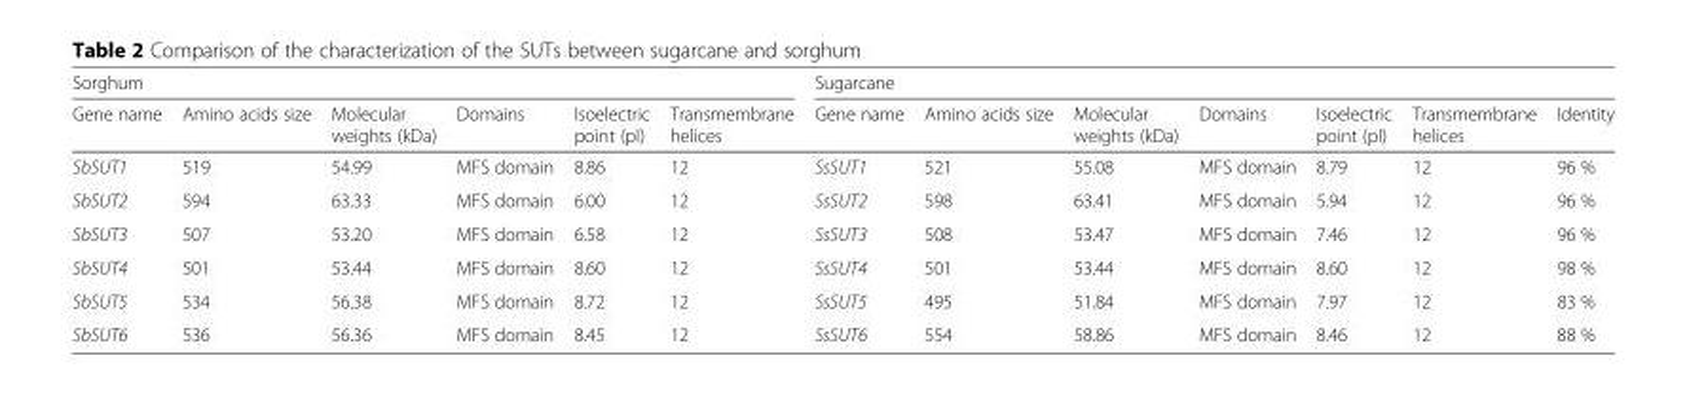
<table><thead><tr><td colspan="6">Sorghum</td><td colspan="7">Sugarcane</td></tr><tr><td>Gene name</td><td>Amino acids size</td><td>Molecular weights (kDa)</td><td>Domains</td><td>Isoelectric point (pI)</td><td>Transmembrane helices</td><td>Gene name</td><td>Amino acids size</td><td>Molecular weights (kDa)</td><td>Domains</td><td>Isoelectric point (pI)</td><td>Transmembrane helices</td><td>Identity</td></tr></thead><tbody><tr><td>SbSUT1</td><td>519</td><td>54.99</td><td>MFS domain</td><td>8.86</td><td>12</td><td>SsSUT1</td><td>521</td><td>55.08</td><td>MFS domain</td><td>8.79</td><td>12</td><td>96 %</td></tr><tr><td>SbSUT2</td><td>594</td><td>63.33</td><td>MFS domain</td><td>6.00</td><td>12</td><td>SsSUT2</td><td>598</td><td>63.41</td><td>MFS domain</td><td>5.94</td><td>12</td><td>96 %</td></tr><tr><td>SbSUT3</td><td>507</td><td>53.20</td><td>MFS domain</td><td>6.58</td><td>12</td><td>SsSUT3</td><td>508</td><td>53.47</td><td>MFS domain</td><td>7.46</td><td>12</td><td>96 %</td></tr><tr><td>SbSUT4</td><td>501</td><td>53.44</td><td>MFS domain</td><td>8.60</td><td>12</td><td>SsSUT4</td><td>501</td><td>53.44</td><td>MFS domain</td><td>8.60</td><td>12</td><td>98 %</td></tr><tr><td>SbSUT5</td><td>534</td><td>56.38</td><td>MFS domain</td><td>8.72</td><td>12</td><td>SsSUT5</td><td>495</td><td>51.84</td><td>MFS domain</td><td>7.97</td><td>12</td><td>83 %</td></tr><tr><td>SbSUT6</td><td>536</td><td>56.36</td><td>MFS domain</td><td>8.45</td><td>12</td><td>SsSUT6</td><td>554</td><td>58.86</td><td>MFS domain</td><td>8.46</td><td>12</td><td>88 %</td></tr></tbody></table>